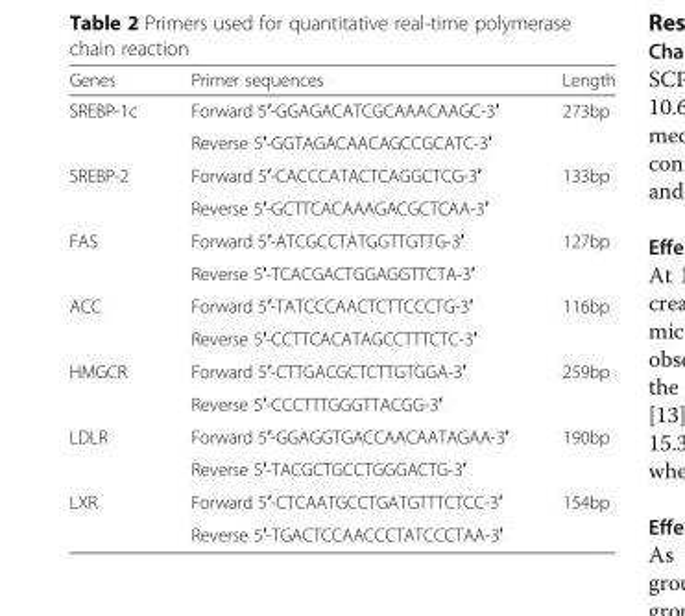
<table><thead><tr><td>Genes</td><td>Primer sequences</td><td>Length</td></tr></thead><tbody><tr><td rowspan="2">SREBP-1c</td><td>Forward 5′-GGAGACATCGCAAACAAGC-3′</td><td rowspan="2">273bp</td></tr><tr><td>Reverse 5′-GGTAGACAACAGCCGCATC-3′</td></tr><tr><td rowspan="2">SREBP-2</td><td>Forward 5′-CACCCATACTCAGGCTCG-3′</td><td rowspan="2">133bp</td></tr><tr><td>Reverse 5′-GCTTCACAAAGACGCTCAA-3′</td></tr><tr><td rowspan="2">FAS</td><td>Forward 5′-ATCGCCTATGGTTGTTG-3′</td><td rowspan="2">127bp</td></tr><tr><td>Reverse 5′-TCACGACTGGAGGTTCTA-3′</td></tr><tr><td rowspan="2">ACC</td><td>Forward 5′-TATCCCAACTCTTCCCTG-3′</td><td rowspan="2">116bp</td></tr><tr><td>Reverse 5′-CCTTCACATAGCCTTTCTC-3′</td></tr><tr><td rowspan="2">HMGCR</td><td>Forward 5′-CTTGACGCTCTTGTGGA-3′</td><td rowspan="2">259bp</td></tr><tr><td>Reverse 5′-CCCTTTGGGTTACGG-3′</td></tr><tr><td rowspan="2">LDLR</td><td>Forward 5′-GGAGGTGACCAACAATAGAA-3′</td><td rowspan="2">190bp</td></tr><tr><td>Reverse 5′-TACGCTGCCTGGGACTG-3′</td></tr><tr><td rowspan="2">LXR</td><td>Forward 5′-CTCAATGCCTGATGTTTCTCC-3′</td><td rowspan="2">154bp</td></tr><tr><td>Reverse 5′-TGACTCCAACCCTATCCCTAA-3′</td></tr></tbody></table>